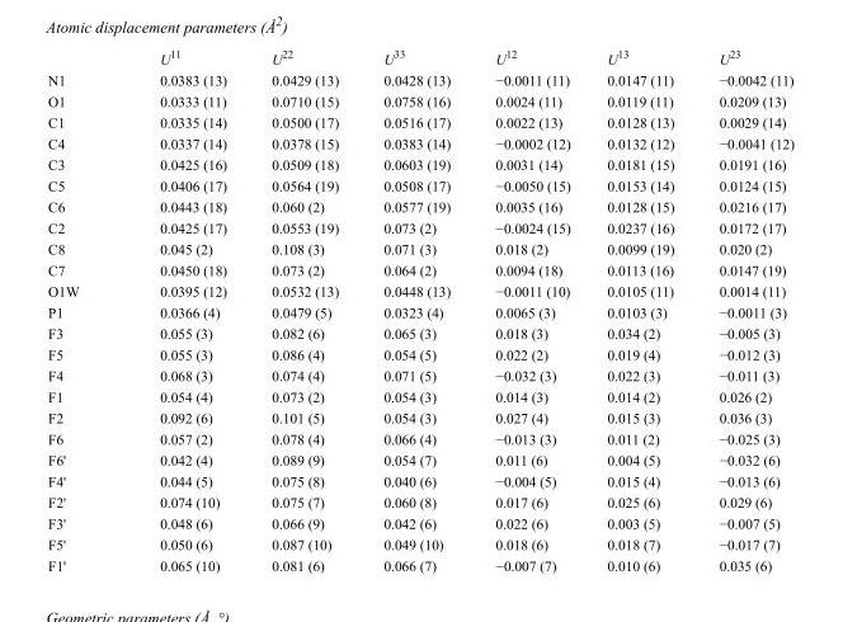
<table><thead><tr><td></td><td>U<sup>11</sup></td><td>U<sup>22</sup></td><td>U<sup>33</sup></td><td>U<sup>12</sup></td><td>U<sup>13</sup></td><td>U<sup>23</sup></td></tr></thead><tbody><tr><td>N1</td><td>0.0383 (13)</td><td>0.0429 (13)</td><td>0.0428 (13)</td><td>−0.0011 (11)</td><td>0.0147 (11)</td><td>−0.0042 (11)</td></tr><tr><td>O1</td><td>0.0333 (11)</td><td>0.0710 (15)</td><td>0.0758 (16)</td><td>0.0024 (11)</td><td>0.0119 (11)</td><td>0.0209 (13)</td></tr><tr><td>C1</td><td>0.0335 (14)</td><td>0.0500 (17)</td><td>0.0516 (17)</td><td>0.0022 (13)</td><td>0.0128 (13)</td><td>0.0029 (14)</td></tr><tr><td>C4</td><td>0.0337 (14)</td><td>0.0378 (15)</td><td>0.0383 (14)</td><td>−0.0002 (12)</td><td>0.0132 (12)</td><td>−0.0041 (12)</td></tr><tr><td>C3</td><td>0.0425 (16)</td><td>0.0509 (18)</td><td>0.0603 (19)</td><td>0.0031 (14)</td><td>0.0181 (15)</td><td>0.0191 (16)</td></tr><tr><td>C5</td><td>0.0406 (17)</td><td>0.0564 (19)</td><td>0.0508 (17)</td><td>−0.0050 (15)</td><td>0.0153 (14)</td><td>0.0124 (15)</td></tr><tr><td>C6</td><td>0.0443 (18)</td><td>0.060 (2)</td><td>0.0577 (19)</td><td>0.0035 (16)</td><td>0.0128 (15)</td><td>0.0216 (17)</td></tr><tr><td>C2</td><td>0.0425 (17)</td><td>0.0553 (19)</td><td>0.073 (2)</td><td>−0.0024 (15)</td><td>0.0237 (16)</td><td>0.0172 (17)</td></tr><tr><td>C8</td><td>0.045 (2)</td><td>0.108 (3)</td><td>0.071 (3)</td><td>0.018 (2)</td><td>0.0099 (19)</td><td>0.020 (2)</td></tr><tr><td>C7</td><td>0.0450 (18)</td><td>0.073 (2)</td><td>0.064 (2)</td><td>0.0094 (18)</td><td>0.0113 (16)</td><td>0.0147 (19)</td></tr><tr><td>O1W</td><td>0.0395 (12)</td><td>0.0532 (13)</td><td>0.0448 (13)</td><td>−0.0011 (10)</td><td>0.0105 (11)</td><td>0.0014 (11)</td></tr><tr><td>P1</td><td>0.0366 (4)</td><td>0.0479 (5)</td><td>0.0323 (4)</td><td>0.0065 (3)</td><td>0.0103 (3)</td><td>−0.0011 (3)</td></tr><tr><td>F3</td><td>0.055 (3)</td><td>0.082 (6)</td><td>0.065 (3)</td><td>0.018 (3)</td><td>0.034 (2)</td><td>−0.005 (3)</td></tr><tr><td>F5</td><td>0.055 (3)</td><td>0.086 (4)</td><td>0.054 (5)</td><td>0.022 (2)</td><td>0.019 (4)</td><td>−0.012 (3)</td></tr><tr><td>F4</td><td>0.068 (3)</td><td>0.074 (4)</td><td>0.071 (5)</td><td>−0.032 (3)</td><td>0.022 (3)</td><td>−0.011 (3)</td></tr><tr><td>F1</td><td>0.054 (4)</td><td>0.073 (2)</td><td>0.054 (3)</td><td>0.014 (3)</td><td>0.014 (2)</td><td>0.026 (2)</td></tr><tr><td>F2</td><td>0.092 (6)</td><td>0.101 (5)</td><td>0.054 (3)</td><td>0.027 (4)</td><td>0.015 (3)</td><td>0.036 (3)</td></tr><tr><td>F6</td><td>0.057 (2)</td><td>0.078 (4)</td><td>0.066 (4)</td><td>−0.013 (3)</td><td>0.011 (2)</td><td>−0.025 (3)</td></tr><tr><td>F6&#x27;</td><td>0.042 (4)</td><td>0.089 (9)</td><td>0.054 (7)</td><td>0.011 (6)</td><td>0.004 (5)</td><td>−0.032 (6)</td></tr><tr><td>F4&#x27;</td><td>0.044 (5)</td><td>0.075 (8)</td><td>0.040 (6)</td><td>−0.004 (5)</td><td>0.015 (4)</td><td>−0.013 (6)</td></tr><tr><td>F2&#x27;</td><td>0.074 (10)</td><td>0.075 (7)</td><td>0.060 (8)</td><td>0.017 (6)</td><td>0.025 (6)</td><td>0.029 (6)</td></tr><tr><td>F3&#x27;</td><td>0.048 (6)</td><td>0.066 (9)</td><td>0.042 (6)</td><td>0.022 (6)</td><td>0.003 (5)</td><td>−0.007 (5)</td></tr><tr><td>F5&#x27;</td><td>0.050 (6)</td><td>0.087 (10)</td><td>0.049 (10)</td><td>0.018 (6)</td><td>0.018 (7)</td><td>−0.017 (7)</td></tr><tr><td>F1&#x27;</td><td>0.065 (10)</td><td>0.081 (6)</td><td>0.066 (7)</td><td>−0.007 (7)</td><td>0.010 (6)</td><td>0.035 (6)</td></tr></tbody></table>